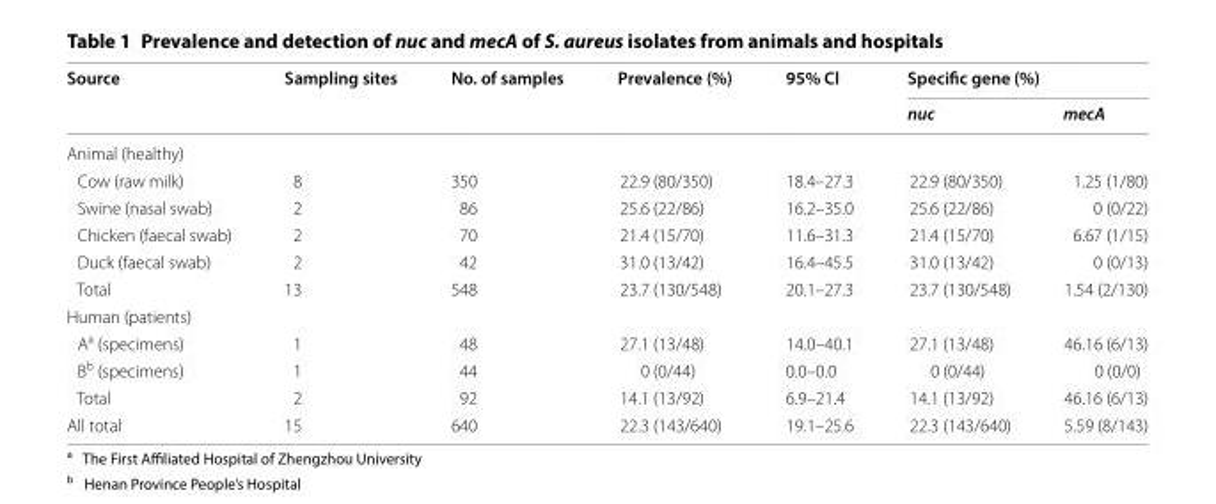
<table><thead><tr><td rowspan="2">Source</td><td rowspan="2">Sampling sites</td><td rowspan="2">No. of samples</td><td rowspan="2">Prevalence (%)</td><td rowspan="2">95% Cl</td><td colspan="2">Specific gene (%)</td></tr><tr><td>nuc</td><td>mecA</td></tr></thead><tbody><tr><td colspan="7">Animal (healthy)</td></tr><tr><td>Cow (raw milk)</td><td>8</td><td>350</td><td>22.9 (80/350)</td><td>18.4–27.3</td><td>22.9 (80/350)</td><td>1.25 (1/80)</td></tr><tr><td>Swine (nasal swab)</td><td>2</td><td>86</td><td>25.6 (22/86)</td><td>16.2–35.0</td><td>25.6 (22/86)</td><td>0 (0/22)</td></tr><tr><td>Chicken (faecal swab)</td><td>2</td><td>70</td><td>21.4 (15/70)</td><td>11.6–31.3</td><td>21.4 (15/70)</td><td>6.67 (1/15)</td></tr><tr><td>Duck (faecal swab)</td><td>2</td><td>42</td><td>31.0 (13/42)</td><td>16.4–45.5</td><td>31.0 (13/42)</td><td>0 (0/13)</td></tr><tr><td>Total</td><td>13</td><td>548</td><td>23.7 (130/548)</td><td>20.1–27.3</td><td>23.7 (130/548)</td><td>1.54 (2/130)</td></tr><tr><td colspan="7">Human (patients)</td></tr><tr><td>A<sup>a</sup> (specimens)</td><td>1</td><td>48</td><td>27.1 (13/48)</td><td>14.0–40.1</td><td>27.1 (13/48)</td><td>46.16 (6/13)</td></tr><tr><td>B<sup>b</sup> (specimens)</td><td>1</td><td>44</td><td>0 (0/44)</td><td>0.0–0.0</td><td>0 (0/44)</td><td>0 (0/0)</td></tr><tr><td>Total</td><td>2</td><td>92</td><td>14.1 (13/92)</td><td>6.9–21.4</td><td>14.1 (13/92)</td><td>46.16 (6/13)</td></tr><tr><td>All total</td><td>15</td><td>640</td><td>22.3 (143/640)</td><td>19.1–25.6</td><td>22.3 (143/640)</td><td>5.59 (8/143)</td></tr></tbody></table>